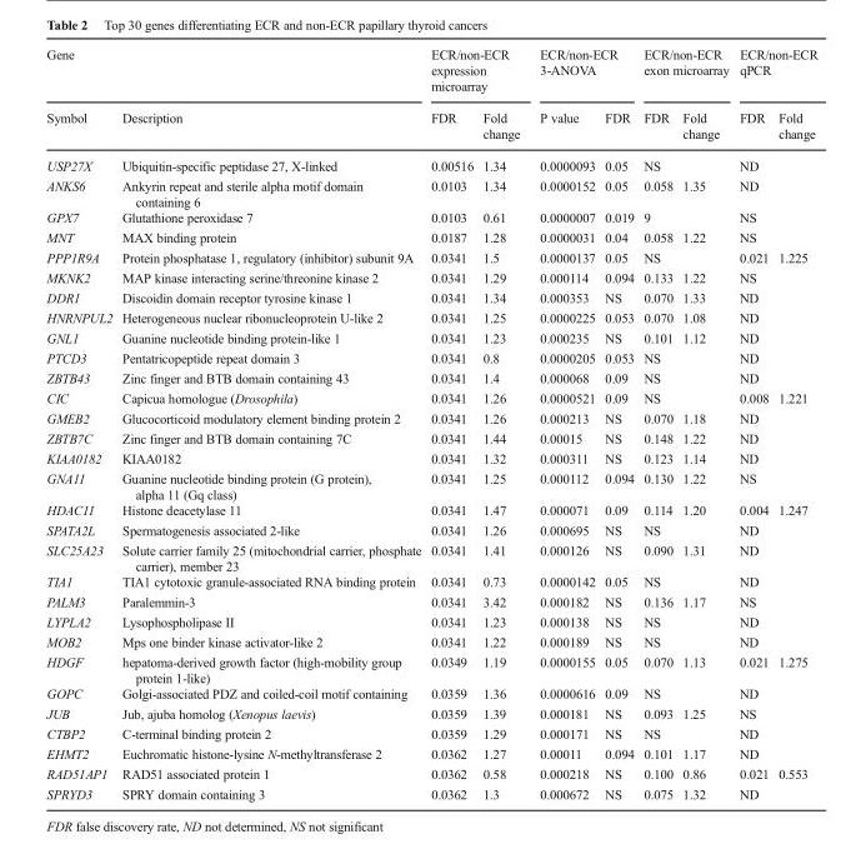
<table><thead><tr><td colspan="2">Gene</td><td colspan="2">ECR/non-ECR expression microarray</td><td colspan="2">ECR/non-ECR 3-ANOVA</td><td colspan="2">ECR/non-ECR exon microarray</td><td colspan="2">ECR/non-ECR qPCR</td></tr><tr><td>Symbol</td><td>Description</td><td>FDR</td><td>Fold change</td><td>P value</td><td>FDR</td><td>FDR</td><td>Fold change</td><td>FDR</td><td>Fold change</td></tr></thead><tbody><tr><td>USP27X</td><td>Ubiquitin-specific peptidase 27, X-linked</td><td>0.00516</td><td>1.34</td><td>0.0000093</td><td>0.05</td><td>NS</td><td></td><td>ND</td><td></td></tr><tr><td>ANKS6</td><td>Ankyrin repeat and sterile alpha motif domain containing 6</td><td>0.0103</td><td>1.34</td><td>0.0000152</td><td>0.05</td><td>0.058</td><td>1.35</td><td>ND</td><td></td></tr><tr><td>GPX7</td><td>Glutathione peroxidase 7</td><td>0.0103</td><td>0.61</td><td>0.0000007</td><td>0.019</td><td>9</td><td></td><td>NS</td><td></td></tr><tr><td>MNT</td><td>MAX binding protein</td><td>0.0187</td><td>1.28</td><td>0.0000031</td><td>0.04</td><td>0.058</td><td>1.22</td><td>NS</td><td></td></tr><tr><td>PPP1R9A</td><td>Protein phosphatase 1, regulatory (inhibitor) subunit 9A</td><td>0.0341</td><td>1.5</td><td>0.0000137</td><td>0.05</td><td>NS</td><td></td><td>0.021</td><td>1.225</td></tr><tr><td>MKNK2</td><td>MAP kinase interacting serine/threonine kinase 2</td><td>0.0341</td><td>1.29</td><td>0.000114</td><td>0.094</td><td>0.133</td><td>1.22</td><td>NS</td><td></td></tr><tr><td>DDR1</td><td>Discoidin domain receptor tyrosine kinase 1</td><td>0.0341</td><td>1.34</td><td>0.000353</td><td>NS</td><td>0.070</td><td>1.33</td><td>ND</td><td></td></tr><tr><td>HNRNPUL2</td><td>Heterogeneous nuclear ribonucleoprotein U-like 2</td><td>0.0341</td><td>1.25</td><td>0.0000225</td><td>0.053</td><td>0.070</td><td>1.08</td><td>ND</td><td></td></tr><tr><td>GNL1</td><td>Guanine nucleotide binding protein-like 1</td><td>0.0341</td><td>1.23</td><td>0.000235</td><td>NS</td><td>0.101</td><td>1.12</td><td>ND</td><td></td></tr><tr><td>PTCD3</td><td>Pentatricopeptide repeat domain 3</td><td>0.0341</td><td>0.8</td><td>0.0000205</td><td>0.053</td><td>NS</td><td></td><td>ND</td><td></td></tr><tr><td>ZBTB43</td><td>Zinc finger and BTB domain containing 43</td><td>0.0341</td><td>1.4</td><td>0.000068</td><td>0.09</td><td>NS</td><td></td><td>ND</td><td></td></tr><tr><td>CIC</td><td>Capicua homologue (Drosophila)</td><td>0.0341</td><td>1.26</td><td>0.0000521</td><td>0.09</td><td>NS</td><td></td><td>0.008</td><td>1.221</td></tr><tr><td>GMEB2</td><td>Glucocorticoid modulatory element binding protein 2</td><td>0.0341</td><td>1.26</td><td>0.000213</td><td>NS</td><td>0.070</td><td>1.18</td><td>ND</td><td></td></tr><tr><td>ZBTB7C</td><td>Zinc finger and BTB domain containing 7C</td><td>0.0341</td><td>1.44</td><td>0.00015</td><td>NS</td><td>0.148</td><td>1.22</td><td>ND</td><td></td></tr><tr><td>KIAA0182</td><td>KIAA0182</td><td>0.0341</td><td>1.32</td><td>0.000311</td><td>NS</td><td>0.123</td><td>1.14</td><td>ND</td><td></td></tr><tr><td>GNA11</td><td>Guanine nucleotide binding protein (G protein), alpha 11 (Gq class)</td><td>0.0341</td><td>1.25</td><td>0.000112</td><td>0.094</td><td>0.130</td><td>1.22</td><td>NS</td><td></td></tr><tr><td>HDAC11</td><td>Histone deacetylase 11</td><td>0.0341</td><td>1.47</td><td>0.000071</td><td>0.09</td><td>0.114</td><td>1.20</td><td>0.004</td><td>1.247</td></tr><tr><td>SPATA2L</td><td>Spermatogenesis associated 2-like</td><td>0.0341</td><td>1.26</td><td>0.000695</td><td>NS</td><td>NS</td><td></td><td>ND</td><td></td></tr><tr><td>SLC25A23</td><td>Solute carrier family 25 (mitochondrial carrier, phosphate carrier), member 23</td><td>0.0341</td><td>1.41</td><td>0.000126</td><td>NS</td><td>0.090</td><td>1.31</td><td>ND</td><td></td></tr><tr><td>TIA1</td><td>TIA1 cytotoxic granule-associated RNA binding protein</td><td>0.0341</td><td>0.73</td><td>0.0000142</td><td>0.05</td><td>NS</td><td></td><td>ND</td><td></td></tr><tr><td>PALM3</td><td>Paralemmin-3</td><td>0.0341</td><td>3.42</td><td>0.000182</td><td>NS</td><td>0.136</td><td>1.17</td><td>NS</td><td></td></tr><tr><td>LYPLA2</td><td>Lysophospholipase II</td><td>0.0341</td><td>1.23</td><td>0.000138</td><td>NS</td><td>NS</td><td></td><td>ND</td><td></td></tr><tr><td>MOB2</td><td>Mps one binder kinase activator-like 2</td><td>0.0341</td><td>1.22</td><td>0.000189</td><td>NS</td><td>NS</td><td></td><td>ND</td><td></td></tr><tr><td>HDGF</td><td>hepatoma-derived growth factor (high-mobility group protein 1-like)</td><td>0.0349</td><td>1.19</td><td>0.0000155</td><td>0.05</td><td>0.070</td><td>1.13</td><td>0.021</td><td>1.275</td></tr><tr><td>GOPC</td><td>Golgi-associated PDZ and coiled-coil motif containing</td><td>0.0359</td><td>1.36</td><td>0.0000616</td><td>0.09</td><td>NS</td><td></td><td>ND</td><td></td></tr><tr><td>JUB</td><td>Jub, ajuba homolog (Xenopus laevis)</td><td>0.0359</td><td>1.39</td><td>0.000181</td><td>NS</td><td>0.093</td><td>1.25</td><td>NS</td><td></td></tr><tr><td>CTBP2</td><td>C-terminal binding protein 2</td><td>0.0359</td><td>1.29</td><td>0.000171</td><td>NS</td><td>NS</td><td></td><td>ND</td><td></td></tr><tr><td>EHMT2</td><td>Euchromatic histone-lysine N-methyltransferase 2</td><td>0.0362</td><td>1.27</td><td>0.00011</td><td>0.094</td><td>0.101</td><td>1.17</td><td>ND</td><td></td></tr><tr><td>RAD51AP1</td><td>RAD51 associated protein 1</td><td>0.0362</td><td>0.58</td><td>0.000218</td><td>NS</td><td>0.100</td><td>0.86</td><td>0.021</td><td>0.553</td></tr><tr><td>SPRYD3</td><td>SPRY domain containing 3</td><td>0.0362</td><td>1.3</td><td>0.000672</td><td>NS</td><td>0.075</td><td>1.32</td><td>ND</td><td></td></tr></tbody></table>